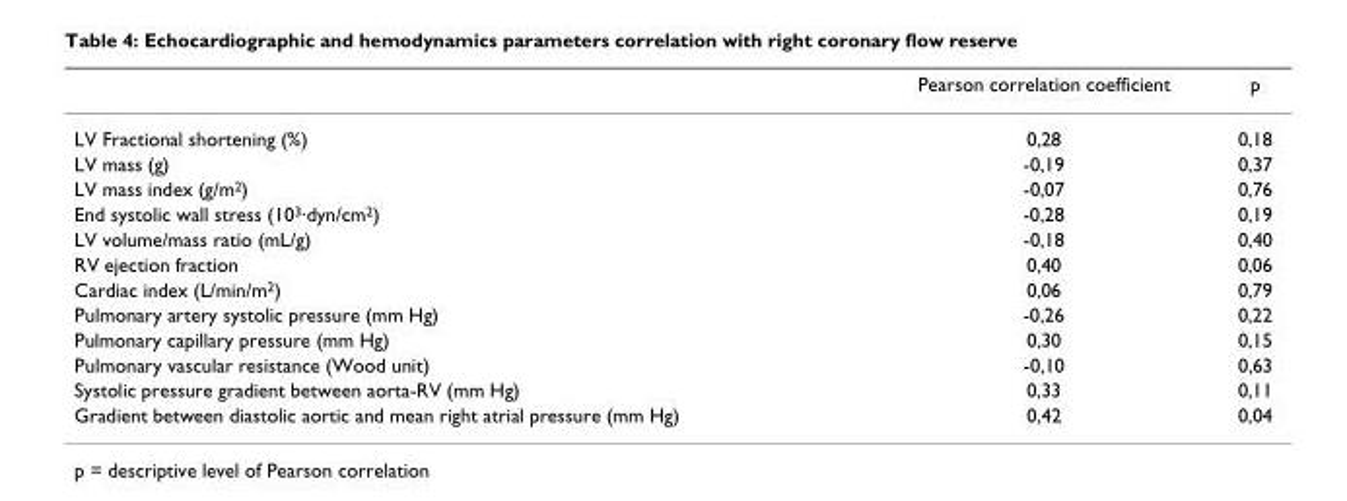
<table><thead><tr><td></td><td>Pearson correlation coefficient</td><td>p</td></tr></thead><tbody><tr><td>LV Fractional shortening (%)</td><td>0,28</td><td>0,18</td></tr><tr><td>LV mass (g)</td><td>-0,19</td><td>0,37</td></tr><tr><td>LV mass index (g/m<sup>2</sup>)</td><td>-0,07</td><td>0,76</td></tr><tr><td>End systolic wall stress (10<sup>3</sup>·dyn/cm<sup>2</sup>)</td><td>-0,28</td><td>0,19</td></tr><tr><td>LV volume/mass ratio (mL/g)</td><td>-0,18</td><td>0,40</td></tr><tr><td>RV ejection fraction</td><td>0,40</td><td>0,06</td></tr><tr><td>Cardiac index (L/min/m<sup>2</sup>)</td><td>0,06</td><td>0,79</td></tr><tr><td>Pulmonary artery systolic pressure (mm Hg)</td><td>-0,26</td><td>0,22</td></tr><tr><td>Pulmonary capillary pressure (mm Hg)</td><td>0,30</td><td>0,15</td></tr><tr><td>Pulmonary vascular resistance (Wood unit)</td><td>-0,10</td><td>0,63</td></tr><tr><td>Systolic pressure gradient between aorta-RV (mm Hg)</td><td>0,33</td><td>0,11</td></tr><tr><td>Gradient between diastolic aortic and mean right atrial pressure (mm Hg)</td><td>0,42</td><td>0,04</td></tr></tbody></table>